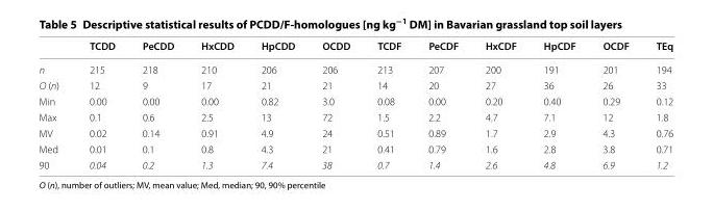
<table><thead><tr><td></td><td>TCDD</td><td>PeCDD</td><td>HxCDD</td><td>HpCDD</td><td>OCDD</td><td>TCDF</td><td>PeCDF</td><td>HxCDF</td><td>HpCDF</td><td>OCDF</td><td>TEq</td></tr></thead><tbody><tr><td>n</td><td>215</td><td>218</td><td>210</td><td>206</td><td>206</td><td>213</td><td>207</td><td>200</td><td>191</td><td>201</td><td>194</td></tr><tr><td>O (n)</td><td>12</td><td>9</td><td>17</td><td>21</td><td>21</td><td>14</td><td>20</td><td>27</td><td>36</td><td>26</td><td>33</td></tr><tr><td>Min</td><td>0.00</td><td>0.00</td><td>0.00</td><td>0.82</td><td>3.0</td><td>0.08</td><td>0.00</td><td>0.20</td><td>0.40</td><td>0.29</td><td>0.12</td></tr><tr><td>Max</td><td>0.1</td><td>0.6</td><td>2.5</td><td>13</td><td>72</td><td>1.5</td><td>2.2</td><td>4.7</td><td>7.1</td><td>12</td><td>1.8</td></tr><tr><td>MV</td><td>0.02</td><td>0.14</td><td>0.91</td><td>4.9</td><td>24</td><td>0.51</td><td>0.89</td><td>1.7</td><td>2.9</td><td>4.3</td><td>0.76</td></tr><tr><td>Med</td><td>0.01</td><td>0.1</td><td>0.8</td><td>4.3</td><td>21</td><td>0.41</td><td>0.79</td><td>1.6</td><td>2.8</td><td>3.8</td><td>0.71</td></tr><tr><td>90</td><td>0.04</td><td>0.2</td><td>1.3</td><td>7.4</td><td>38</td><td>0.7</td><td>1.4</td><td>2.6</td><td>4.8</td><td>6.9</td><td>1.2</td></tr></tbody></table>